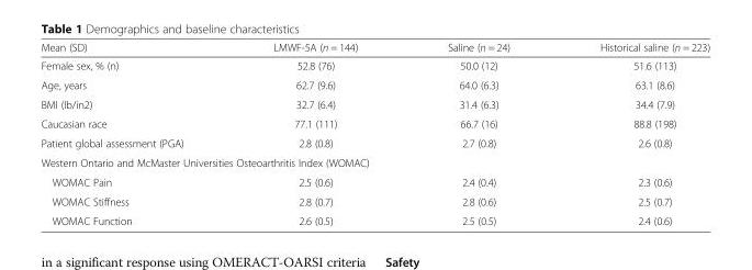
<table><thead><tr><td>Mean (SD)</td><td>LMWF-5A (n = 144)</td><td>Saline (n = 24)</td><td>Historical saline (n = 223)</td></tr></thead><tbody><tr><td>Female sex, % (n)</td><td>52.8 (76)</td><td>50.0 (12)</td><td>51.6 (113)</td></tr><tr><td>Age, years</td><td>62.7 (9.6)</td><td>64.0 (6.3)</td><td>63.1 (8.6)</td></tr><tr><td>BMI (lb/in2)</td><td>32.7 (6.4)</td><td>31.4 (6.3)</td><td>34.4 (7.9)</td></tr><tr><td>Caucasian race</td><td>77.1 (111)</td><td>66.7 (16)</td><td>88.8 (198)</td></tr><tr><td>Patient global assessment (PGA)</td><td>2.8 (0.8)</td><td>2.7 (0.8)</td><td>2.6 (0.8)</td></tr><tr><td colspan="4">Western Ontario and McMaster Universities Osteoarthritis Index (WOMAC)</td></tr><tr><td>WOMAC Pain</td><td>2.5 (0.6)</td><td>2.4 (0.4)</td><td>2.3 (0.6)</td></tr><tr><td>WOMAC Stiffness</td><td>2.8 (0.7)</td><td>2.8 (0.6)</td><td>2.5 (0.7)</td></tr><tr><td>WOMAC Function</td><td>2.6 (0.5)</td><td>2.5 (0.5)</td><td>2.4 (0.6)</td></tr></tbody></table>